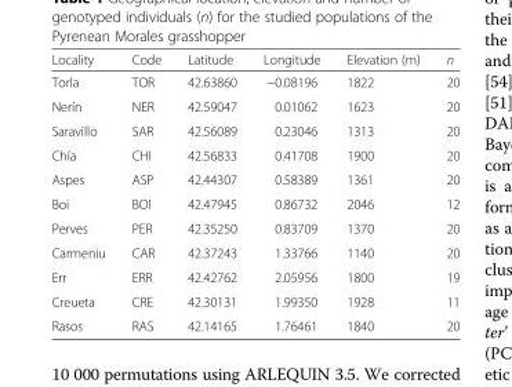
<table><thead><tr><td>Locality</td><td>Code</td><td>Latitude</td><td>Longitude</td><td>Elevation (m)</td><td>n</td></tr></thead><tbody><tr><td>Torla</td><td>TOR</td><td>42.63860</td><td>−0.08196</td><td>1822</td><td>20</td></tr><tr><td>Nerín</td><td>NER</td><td>42.59047</td><td>0.01062</td><td>1623</td><td>20</td></tr><tr><td>Saravillo</td><td>SAR</td><td>42.56089</td><td>0.23046</td><td>1313</td><td>20</td></tr><tr><td>Chía</td><td>CHI</td><td>42.56833</td><td>0.41708</td><td>1900</td><td>20</td></tr><tr><td>Aspes</td><td>ASP</td><td>42.44307</td><td>0.58389</td><td>1361</td><td>20</td></tr><tr><td>Boi</td><td>BOI</td><td>42.47945</td><td>0.86732</td><td>2046</td><td>12</td></tr><tr><td>Perves</td><td>PER</td><td>42.35250</td><td>0.83709</td><td>1370</td><td>20</td></tr><tr><td>Carmeniu</td><td>CAR</td><td>42.37243</td><td>1.33766</td><td>1140</td><td>20</td></tr><tr><td>Err</td><td>ERR</td><td>42.42762</td><td>2.05956</td><td>1800</td><td>19</td></tr><tr><td>Creueta</td><td>CRE</td><td>42.30131</td><td>1.99350</td><td>1928</td><td>11</td></tr><tr><td>Rasos</td><td>RAS</td><td>42.14165</td><td>1.76461</td><td>1840</td><td>20</td></tr></tbody></table>